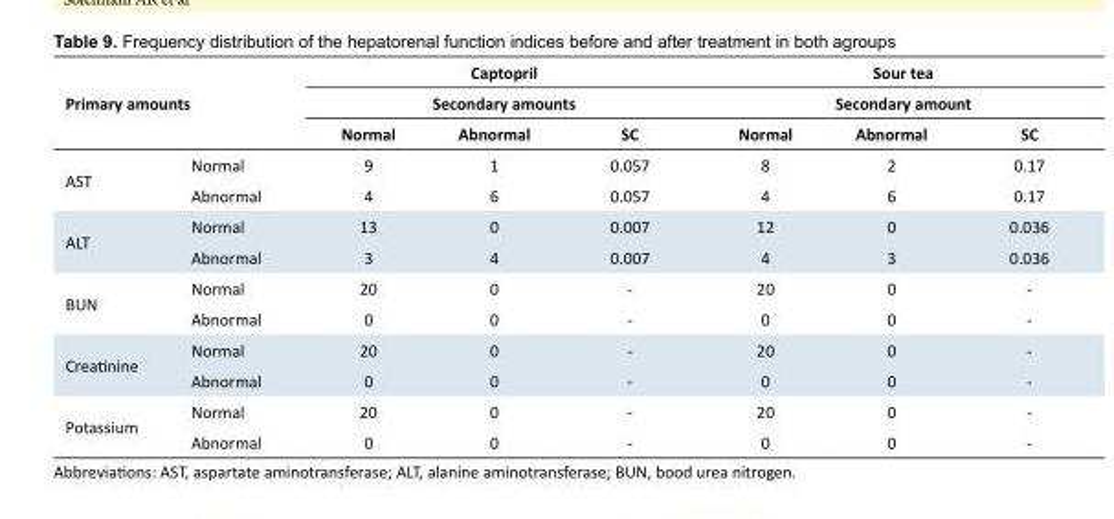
<table><tbody><tr><td rowspan="3">Primary amounts</td><td rowspan="3"></td><td colspan="3">Captopril</td><td colspan="3">Sour tea</td></tr><tr><td colspan="3">Secondary amounts</td><td colspan="3">Secondary amount</td></tr><tr><td>Normal</td><td>Abnormal</td><td>SC</td><td>Normal</td><td>Abnormal</td><td>SC</td></tr><tr><td rowspan="2">AST</td><td>Normal</td><td>9</td><td>1</td><td>0.057</td><td>8</td><td>2</td><td>0.17</td></tr><tr><td>Abnormal</td><td>4</td><td>6</td><td>0.057</td><td>4</td><td>6</td><td>0.17</td></tr><tr><td rowspan="2">ALT</td><td>Normal</td><td>13</td><td>0</td><td>0.007</td><td>12</td><td>0</td><td>0.036</td></tr><tr><td>Abnormal</td><td>3</td><td>4</td><td>0.007</td><td>4</td><td>3</td><td>0.036</td></tr><tr><td rowspan="2">BUN</td><td>Normal</td><td>20</td><td>0</td><td>-</td><td>20</td><td>0</td><td>-</td></tr><tr><td>Abnormal</td><td>0</td><td>0</td><td>-</td><td>0</td><td>0</td><td>-</td></tr><tr><td rowspan="2">Creatinine</td><td>Normal</td><td>20</td><td>0</td><td>-</td><td>20</td><td>0</td><td>-</td></tr><tr><td>Abnormal</td><td>0</td><td>0</td><td>-</td><td>0</td><td>0</td><td>-</td></tr><tr><td rowspan="2">Potassium</td><td>Normal</td><td>20</td><td>0</td><td>-</td><td>20</td><td>0</td><td>-</td></tr><tr><td>Abnormal</td><td>0</td><td>0</td><td>-</td><td>0</td><td>0</td><td>-</td></tr></tbody></table>